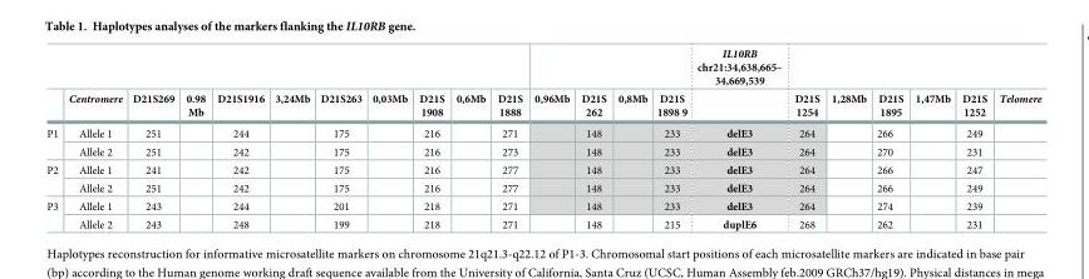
<table><thead><tr><td rowspan="2"></td><td rowspan="2">Centromere</td><td rowspan="2">D21S269</td><td rowspan="2">0.98 Mb</td><td rowspan="2">D21S1916</td><td rowspan="2">3,24Mb</td><td rowspan="2">D21S263</td><td rowspan="2">0,03Mb</td><td rowspan="2">D21S 1908</td><td rowspan="2">0,6Mb</td><td rowspan="2">D21S 1888</td><td rowspan="2">0,96Mb</td><td rowspan="2">D21S 262</td><td rowspan="2">0,8Mb</td><td rowspan="2">D21S 1898 9</td><td rowspan="2">IL10RB chr21:34,638,665– 34,669,539</td><td rowspan="2">D21S 1254</td><td rowspan="2">1,28Mb</td><td rowspan="2">D21S 1895</td><td rowspan="2">1,47Mb</td><td rowspan="2">D21S 1252</td><td rowspan="2">Telomere</td></tr><tr></tr></thead><tbody><tr><td rowspan="2">P1</td><td>Allele 1</td><td>251</td><td></td><td>244</td><td></td><td>175</td><td></td><td>216</td><td></td><td>271</td><td></td><td>148</td><td></td><td>233</td><td>delE3</td><td>264</td><td></td><td>266</td><td></td><td>249</td><td></td></tr><tr><td>Allele 2</td><td>251</td><td></td><td>242</td><td></td><td>175</td><td></td><td>216</td><td></td><td>273</td><td></td><td>148</td><td></td><td>233</td><td>delE3</td><td>264</td><td></td><td>270</td><td></td><td>231</td><td></td></tr><tr><td rowspan="2">P2</td><td>Allele 1</td><td>241</td><td></td><td>242</td><td></td><td>175</td><td></td><td>216</td><td></td><td>277</td><td></td><td>148</td><td></td><td>233</td><td>delE3</td><td>264</td><td></td><td>266</td><td></td><td>247</td><td></td></tr><tr><td>Allele 2</td><td>251</td><td></td><td>242</td><td></td><td>175</td><td></td><td>216</td><td></td><td>277</td><td></td><td>148</td><td></td><td>233</td><td>delE3</td><td>264</td><td></td><td>266</td><td></td><td>249</td><td></td></tr><tr><td rowspan="2">P3</td><td>Allele 1</td><td>243</td><td></td><td>244</td><td></td><td>201</td><td></td><td>218</td><td></td><td>271</td><td></td><td>148</td><td></td><td>233</td><td>delE3</td><td>264</td><td></td><td>274</td><td></td><td>239</td><td></td></tr><tr><td>Allele 2</td><td>243</td><td></td><td>248</td><td></td><td>199</td><td></td><td>218</td><td></td><td>271</td><td></td><td>148</td><td></td><td>215</td><td>duplE6</td><td>268</td><td></td><td>262</td><td></td><td>231</td><td></td></tr></tbody></table>